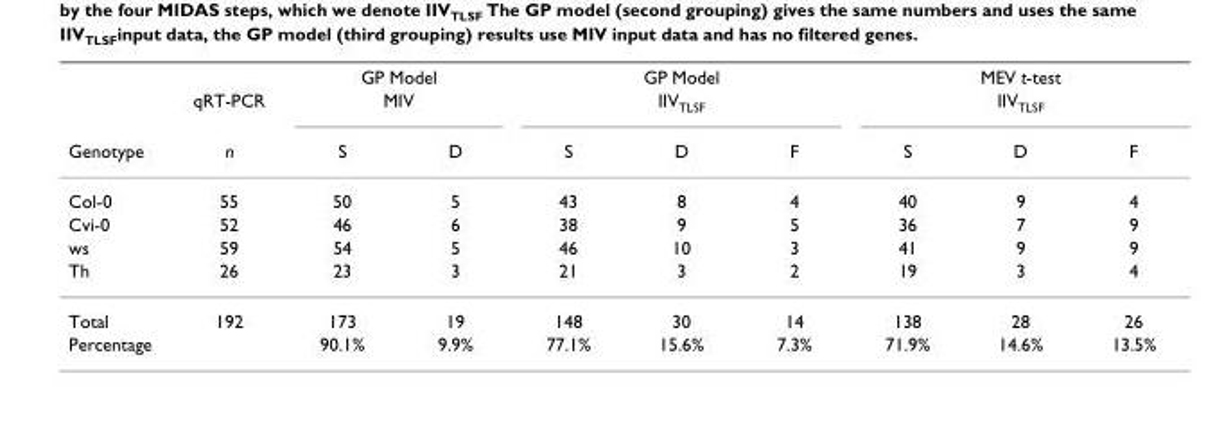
<table><thead><tr><td rowspan="3">Genotype</td><td rowspan="3">qRT-PCR n</td><td rowspan="2" colspan="2">GP Model MIV</td><td rowspan="2" colspan="3">GP Model IIVTLSF</td><td rowspan="2" colspan="3">MEV t-test IIVTLSF</td></tr><tr></tr><tr><td>S</td><td>D</td><td>S</td><td>D</td><td>F</td><td>S</td><td>D</td><td>F</td></tr></thead><tbody><tr><td>Col-0</td><td>55</td><td>50</td><td>5</td><td>43</td><td>8</td><td>4</td><td>40</td><td>9</td><td>4</td></tr><tr><td>Cvi-0</td><td>52</td><td>46</td><td>6</td><td>38</td><td>9</td><td>5</td><td>36</td><td>7</td><td>9</td></tr><tr><td>ws</td><td>59</td><td>54</td><td>5</td><td>46</td><td>10</td><td>3</td><td>41</td><td>9</td><td>9</td></tr><tr><td>Th</td><td>26</td><td>23</td><td>3</td><td>21</td><td>3</td><td>2</td><td>19</td><td>3</td><td>4</td></tr><tr><td>Total</td><td>192</td><td>173</td><td>19</td><td>148</td><td>30</td><td>14</td><td>138</td><td>28</td><td>26</td></tr><tr><td>Percentage</td><td></td><td>90.1%</td><td>9.9%</td><td>77.1%</td><td>15.6%</td><td>7.3%</td><td>71.9%</td><td>14.6%</td><td>13.5%</td></tr></tbody></table>